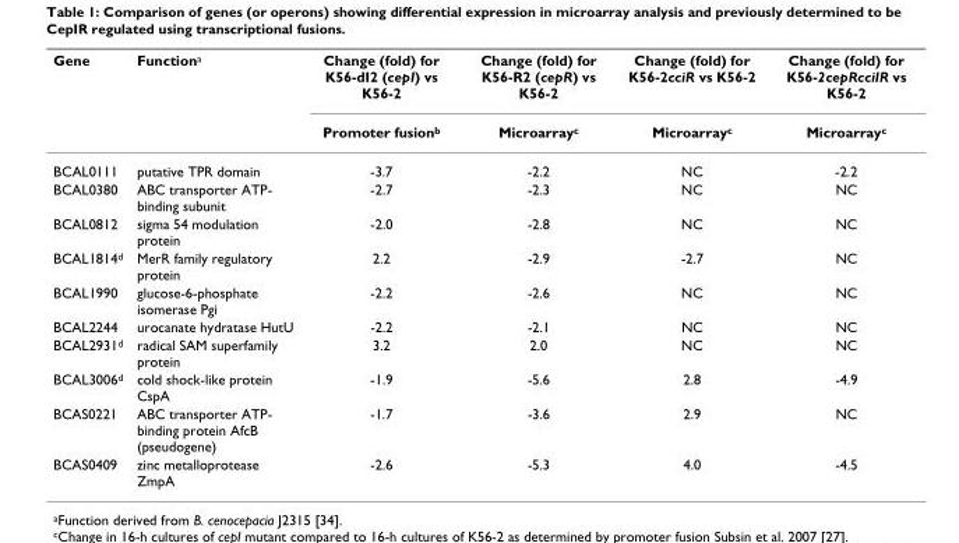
<table><thead><tr><td rowspan="2">Gene</td><td rowspan="2">Function<sup>a</sup></td><td rowspan="2">Change (fold) for K56-dI2 (cepI) vs K56-2 Promoter fusion<sup>b</sup></td><td rowspan="2">Change (fold) for K56-R2 (cepR) vs K56-2 Microarray<sup>c</sup></td><td rowspan="2">Change (fold) for K56-2cciR vs K56-2 Microarray<sup>c</sup></td><td rowspan="2">Change (fold) for K56-2cepRcciIR vs K56-2 Microarray<sup>c</sup></td></tr><tr></tr></thead><tbody><tr><td>BCAL0111</td><td>putative TPR domain</td><td>-3.7</td><td>-2.2</td><td>NC</td><td>-2.2</td></tr><tr><td>BCAL0380</td><td>ABC transporter ATP- binding subunit</td><td>-2.7</td><td>-2.3</td><td>NC</td><td>NC</td></tr><tr><td>BCAL0812</td><td>sigma 54 modulation protein</td><td>-2.0</td><td>-2.8</td><td>NC</td><td>NC</td></tr><tr><td>BCAL1814<sup>d</sup></td><td>MerR family regulatory protein</td><td>2.2</td><td>-2.9</td><td>-2.7</td><td>NC</td></tr><tr><td>BCAL1990</td><td>glucose-6-phosphate isomerase Pgi</td><td>-2.2</td><td>-2.6</td><td>NC</td><td>NC</td></tr><tr><td>BCAL2244</td><td>urocanate hydratase HutU</td><td>-2.2</td><td>-2.1</td><td>NC</td><td>NC</td></tr><tr><td>BCAL2931<sup>d</sup></td><td>radical SAM superfamily protein</td><td>3.2</td><td>2.0</td><td>NC</td><td>NC</td></tr><tr><td>BCAL3006<sup>d</sup></td><td>cold shock-like protein CspA</td><td>-1.9</td><td>-5.6</td><td>2.8</td><td>-4.9</td></tr><tr><td>BCAS0221</td><td>ABC transporter ATP- binding protein AfcB (pseudogene)</td><td>-1.7</td><td>-3.6</td><td>2.9</td><td>NC</td></tr><tr><td>BCAS0409</td><td>zinc metalloprotease ZmpA</td><td>-2.6</td><td>-5.3</td><td>4.0</td><td>-4.5</td></tr></tbody></table>